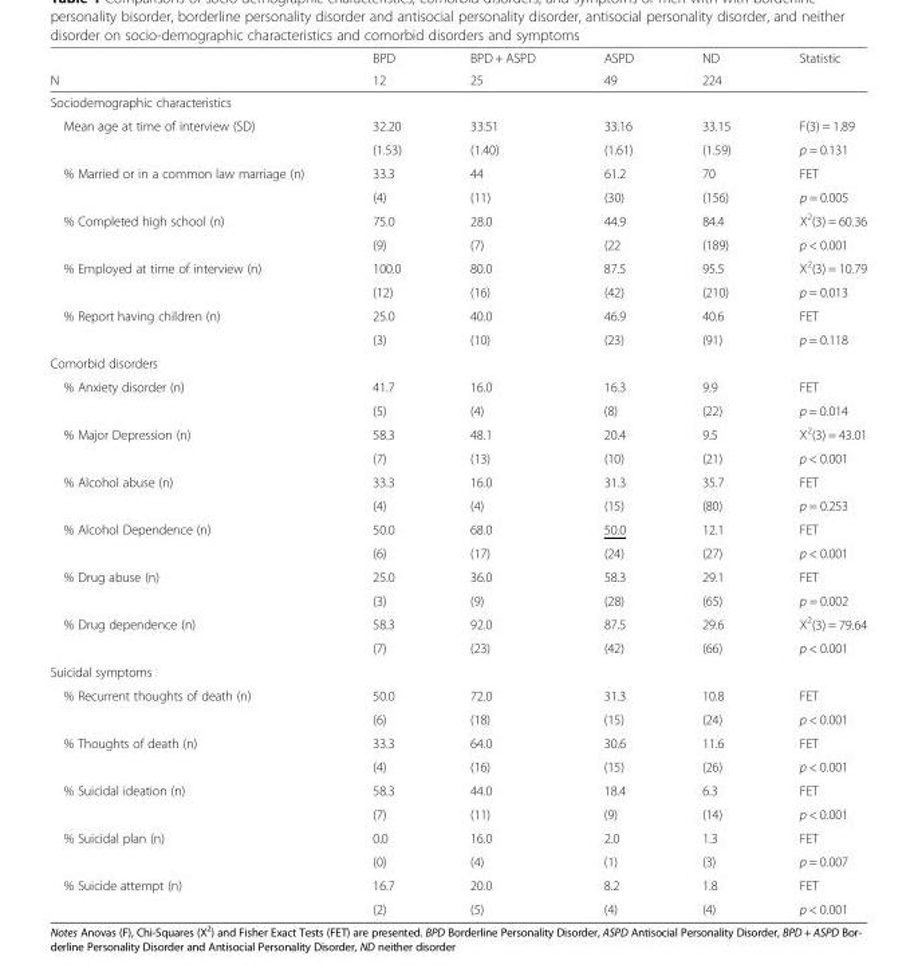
<table><thead><tr><td rowspan="2">N</td><td rowspan="2">BPD 12</td><td rowspan="2">BPD + ASPD 25</td><td rowspan="2">ASPD 49</td><td rowspan="2">ND 224</td><td rowspan="2">Statistic</td></tr><tr></tr></thead><tbody><tr><td colspan="6">Sociodemographic characteristics</td></tr><tr><td rowspan="2">Mean age at time of interview (SD)</td><td>32.20</td><td>33.51</td><td>33.16</td><td>33.15</td><td>F(3) = 1.89</td></tr><tr><td>(1.53)</td><td>(1.40)</td><td>(1.61)</td><td>(1.59)</td><td>p = 0.131</td></tr><tr><td rowspan="2">% Married or in a common law marriage (n)</td><td>33.3</td><td>44</td><td>61.2</td><td>70</td><td>FET</td></tr><tr><td>(4)</td><td>(11)</td><td>(30)</td><td>(156)</td><td>p = 0.005</td></tr><tr><td rowspan="2">% Completed high school (n)</td><td>75.0</td><td>28.0</td><td>44.9</td><td>84.4</td><td>X<sup>2</sup>(3) = 60.36</td></tr><tr><td>(9)</td><td>(7)</td><td>(22</td><td>(189)</td><td>p &lt; 0.001</td></tr><tr><td rowspan="2">% Employed at time of interview (n)</td><td>100.0</td><td>80.0</td><td>87.5</td><td>95.5</td><td>X<sup>2</sup>(3) = 10.79</td></tr><tr><td>(12)</td><td>(16)</td><td>(42)</td><td>(210)</td><td>p = 0.013</td></tr><tr><td rowspan="2">% Report having children (n)</td><td>25.0</td><td>40.0</td><td>46.9</td><td>40.6</td><td>FET</td></tr><tr><td>(3)</td><td>(10)</td><td>(23)</td><td>(91)</td><td>p = 0.118</td></tr><tr><td colspan="6">Comorbid disorders</td></tr><tr><td rowspan="2">% Anxiety disorder (n)</td><td>41.7</td><td>16.0</td><td>16.3</td><td>9.9</td><td>FET</td></tr><tr><td>(5)</td><td>(4)</td><td>(8)</td><td>(22)</td><td>p = 0.014</td></tr><tr><td rowspan="2">% Major Depression (n)</td><td>58.3</td><td>48.1</td><td>20.4</td><td>9.5</td><td>X<sup>2</sup>(3) = 43.01</td></tr><tr><td>(7)</td><td>(13)</td><td>(10)</td><td>(21)</td><td>p &lt; 0.001</td></tr><tr><td rowspan="2">% Alcohol abuse (n)</td><td>33.3</td><td>16.0</td><td>31.3</td><td>35.7</td><td>FET</td></tr><tr><td>(4)</td><td>(4)</td><td>(15)</td><td>(80)</td><td>p = 0.253</td></tr><tr><td rowspan="2">% Alcohol Dependence (n)</td><td>50.0</td><td>68.0</td><td>50.0</td><td>12.1</td><td>FET</td></tr><tr><td>(6)</td><td>(17)</td><td>(24)</td><td>(27)</td><td>p &lt; 0.001</td></tr><tr><td rowspan="2">% Drug abuse (n)</td><td>25.0</td><td>36.0</td><td>58.3</td><td>29.1</td><td>FET</td></tr><tr><td>(3)</td><td>(9)</td><td>(28)</td><td>(65)</td><td>p = 0.002</td></tr><tr><td rowspan="2">% Drug dependence (n)</td><td>58.3</td><td>92.0</td><td>87.5</td><td>29.6</td><td>X<sup>2</sup>(3) = 79.64</td></tr><tr><td>(7)</td><td>(23)</td><td>(42)</td><td>(66)</td><td>p &lt; 0.001</td></tr><tr><td colspan="6">Suicidal symptoms</td></tr><tr><td rowspan="2">% Recurrent thoughts of death (n)</td><td>50.0</td><td>72.0</td><td>31.3</td><td>10.8</td><td>FET</td></tr><tr><td>(6)</td><td>(18)</td><td>(15)</td><td>(24)</td><td>p &lt; 0.001</td></tr><tr><td rowspan="2">% Thoughts of death (n)</td><td>33.3</td><td>64.0</td><td>30.6</td><td>11.6</td><td>FET</td></tr><tr><td>(4)</td><td>(16)</td><td>(15)</td><td>(26)</td><td>p &lt; 0.001</td></tr><tr><td rowspan="2">% Suicidal ideation (n)</td><td>58.3</td><td>44.0</td><td>18.4</td><td>6.3</td><td>FET</td></tr><tr><td>(7)</td><td>(11)</td><td>(9)</td><td>(14)</td><td>p &lt; 0.001</td></tr><tr><td rowspan="2">% Suicidal plan (n)</td><td>0.0</td><td>16.0</td><td>2.0</td><td>1.3</td><td>FET</td></tr><tr><td>(0)</td><td>(4)</td><td>(1)</td><td>(3)</td><td>p = 0.007</td></tr><tr><td rowspan="2">% Suicide attempt (n)</td><td>16.7</td><td>20.0</td><td>8.2</td><td>1.8</td><td>FET</td></tr><tr><td>(2)</td><td>(5)</td><td>(4)</td><td>(4)</td><td>p &lt; 0.001</td></tr></tbody></table>